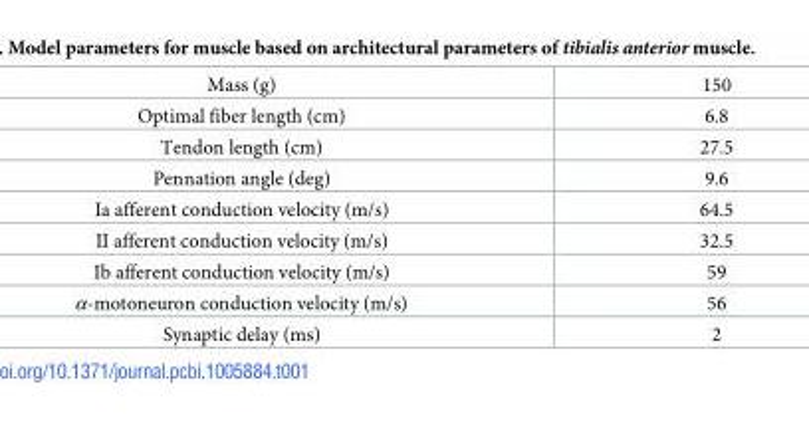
<table><tbody><tr><td>Mass (g)</td><td>150</td></tr><tr><td>Optimal fiber length (cm)</td><td>6.8</td></tr><tr><td>Tendon length (cm)</td><td>27.5</td></tr><tr><td>Pennation angle (deg)</td><td>9.6</td></tr><tr><td>Ia afferent conduction velocity (m/s)</td><td>64.5</td></tr><tr><td>II afferent conduction velocity (m/s)</td><td>32.5</td></tr><tr><td>Ib afferent conduction velocity (m/s)</td><td>59</td></tr><tr><td>α-motoneuron conduction velocity (m/s)</td><td>56</td></tr><tr><td>Synaptic delay (ms)</td><td>2</td></tr></tbody></table>